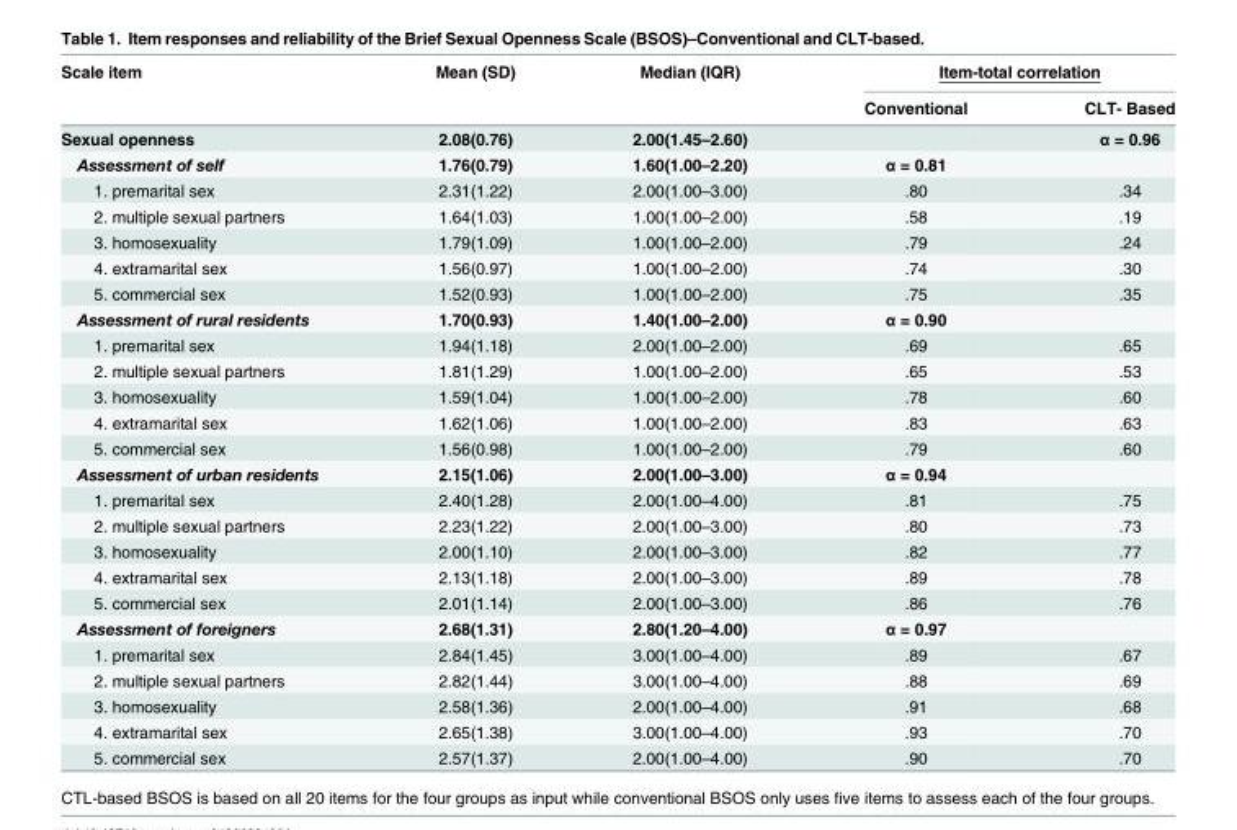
<table><thead><tr><td rowspan="2">Scale item</td><td rowspan="2">Mean (SD)</td><td rowspan="2">Median (IQR)</td><td colspan="2">Item-total correlation</td></tr><tr><td>Conventional</td><td>CLT- Based</td></tr></thead><tbody><tr><td>Sexual openness</td><td>2.08(0.76)</td><td>2.00(1.45–2.60)</td><td></td><td>α = 0.96</td></tr><tr><td>Assessment of self</td><td>1.76(0.79)</td><td>1.60(1.00–2.20)</td><td>α = 0.81</td><td></td></tr><tr><td>1. premarital sex</td><td>2.31(1.22)</td><td>2.00(1.00–3.00)</td><td>.80</td><td>.34</td></tr><tr><td>2. multiple sexual partners</td><td>1.64(1.03)</td><td>1.00(1.00–2.00)</td><td>.58</td><td>.19</td></tr><tr><td>3. homosexuality</td><td>1.79(1.09)</td><td>1.00(1.00–2.00)</td><td>.79</td><td>.24</td></tr><tr><td>4. extramarital sex</td><td>1.56(0.97)</td><td>1.00(1.00–2.00)</td><td>.74</td><td>.30</td></tr><tr><td>5. commercial sex</td><td>1.52(0.93)</td><td>1.00(1.00–2.00)</td><td>.75</td><td>.35</td></tr><tr><td>Assessment of rural residents</td><td>1.70(0.93)</td><td>1.40(1.00–2.00)</td><td>α = 0.90</td><td></td></tr><tr><td>1. premarital sex</td><td>1.94(1.18)</td><td>2.00(1.00–2.00)</td><td>.69</td><td>.65</td></tr><tr><td>2. multiple sexual partners</td><td>1.81(1.29)</td><td>1.00(1.00–2.00)</td><td>.65</td><td>.53</td></tr><tr><td>3. homosexuality</td><td>1.59(1.04)</td><td>1.00(1.00–2.00)</td><td>.78</td><td>.60</td></tr><tr><td>4. extramarital sex</td><td>1.62(1.06)</td><td>1.00(1.00–2.00)</td><td>.83</td><td>.63</td></tr><tr><td>5. commercial sex</td><td>1.56(0.98)</td><td>1.00(1.00–2.00)</td><td>.79</td><td>.60</td></tr><tr><td>Assessment of urban residents</td><td>2.15(1.06)</td><td>2.00(1.00–3.00)</td><td>α = 0.94</td><td></td></tr><tr><td>1. premarital sex</td><td>2.40(1.28)</td><td>2.00(1.00–4.00)</td><td>.81</td><td>.75</td></tr><tr><td>2. multiple sexual partners</td><td>2.23(1.22)</td><td>2.00(1.00–3.00)</td><td>.80</td><td>.73</td></tr><tr><td>3. homosexuality</td><td>2.00(1.10)</td><td>2.00(1.00–3.00)</td><td>.82</td><td>.77</td></tr><tr><td>4. extramarital sex</td><td>2.13(1.18)</td><td>2.00(1.00–3.00)</td><td>.89</td><td>.78</td></tr><tr><td>5. commercial sex</td><td>2.01(1.14)</td><td>2.00(1.00–3.00)</td><td>.86</td><td>.76</td></tr><tr><td>Assessment of foreigners</td><td>2.68(1.31)</td><td>2.80(1.20–4.00)</td><td>α = 0.97</td><td></td></tr><tr><td>1. premarital sex</td><td>2.84(1.45)</td><td>3.00(1.00–4.00)</td><td>.89</td><td>.67</td></tr><tr><td>2. multiple sexual partners</td><td>2.82(1.44)</td><td>3.00(1.00–4.00)</td><td>.88</td><td>.69</td></tr><tr><td>3. homosexuality</td><td>2.58(1.36)</td><td>2.00(1.00–4.00)</td><td>.91</td><td>.68</td></tr><tr><td>4. extramarital sex</td><td>2.65(1.38)</td><td>3.00(1.00–4.00)</td><td>.93</td><td>.70</td></tr><tr><td>5. commercial sex</td><td>2.57(1.37)</td><td>2.00(1.00–4.00)</td><td>.90</td><td>.70</td></tr></tbody></table>